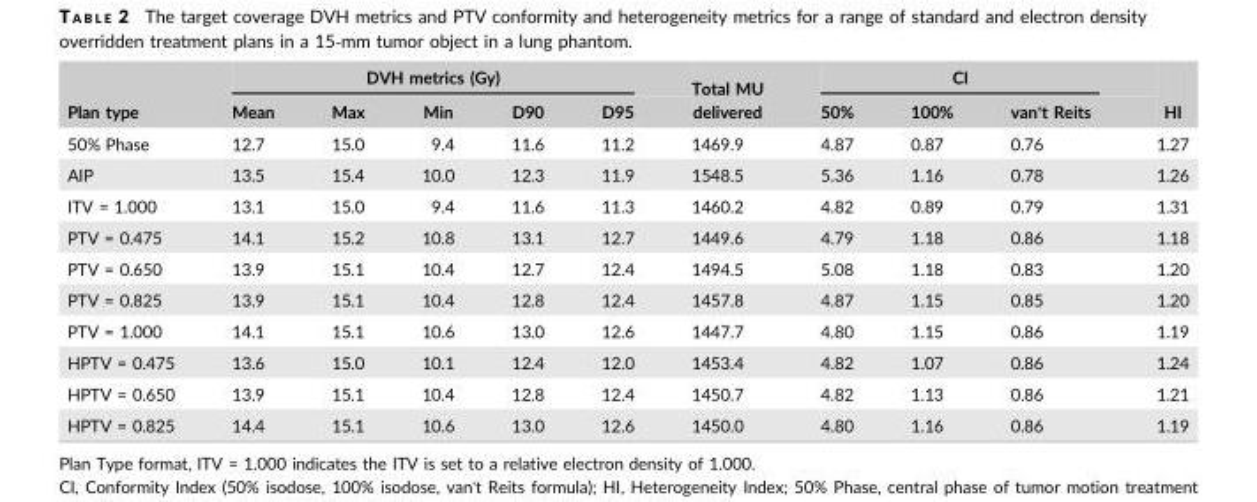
<table><thead><tr><td rowspan="2">Plan type</td><td colspan="5">DVH metrics (Gy)</td><td rowspan="2">Total MU delivered</td><td colspan="3">CI</td><td rowspan="2">HI</td></tr><tr><td>Mean</td><td>Max</td><td>Min</td><td>D90</td><td>D95</td><td>50%</td><td>100%</td><td>van&#x27;t Reits</td></tr></thead><tbody><tr><td>50% Phase</td><td>12.7</td><td>15.0</td><td>9.4</td><td>11.6</td><td>11.2</td><td>1469.9</td><td>4.87</td><td>0.87</td><td>0.76</td><td>1.27</td></tr><tr><td>AIP</td><td>13.5</td><td>15.4</td><td>10.0</td><td>12.3</td><td>11.9</td><td>1548.5</td><td>5.36</td><td>1.16</td><td>0.78</td><td>1.26</td></tr><tr><td>ITV = 1.000</td><td>13.1</td><td>15.0</td><td>9.4</td><td>11.6</td><td>11.3</td><td>1460.2</td><td>4.82</td><td>0.89</td><td>0.79</td><td>1.31</td></tr><tr><td>PTV = 0.475</td><td>14.1</td><td>15.2</td><td>10.8</td><td>13.1</td><td>12.7</td><td>1449.6</td><td>4.79</td><td>1.18</td><td>0.86</td><td>1.18</td></tr><tr><td>PTV = 0.650</td><td>13.9</td><td>15.1</td><td>10.4</td><td>12.7</td><td>12.4</td><td>1494.5</td><td>5.08</td><td>1.18</td><td>0.83</td><td>1.20</td></tr><tr><td>PTV = 0.825</td><td>13.9</td><td>15.1</td><td>10.4</td><td>12.8</td><td>12.4</td><td>1457.8</td><td>4.87</td><td>1.15</td><td>0.85</td><td>1.20</td></tr><tr><td>PTV = 1.000</td><td>14.1</td><td>15.1</td><td>10.6</td><td>13.0</td><td>12.6</td><td>1447.7</td><td>4.80</td><td>1.15</td><td>0.86</td><td>1.19</td></tr><tr><td>HPTV = 0.475</td><td>13.6</td><td>15.0</td><td>10.1</td><td>12.4</td><td>12.0</td><td>1453.4</td><td>4.82</td><td>1.07</td><td>0.86</td><td>1.24</td></tr><tr><td>HPTV = 0.650</td><td>13.9</td><td>15.1</td><td>10.4</td><td>12.8</td><td>12.4</td><td>1450.7</td><td>4.82</td><td>1.13</td><td>0.86</td><td>1.21</td></tr><tr><td>HPTV = 0.825</td><td>14.4</td><td>15.1</td><td>10.6</td><td>13.0</td><td>12.6</td><td>1450.0</td><td>4.80</td><td>1.16</td><td>0.86</td><td>1.19</td></tr></tbody></table>